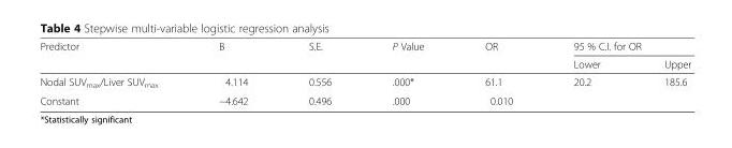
<table><thead><tr><td rowspan="2">Predictor</td><td rowspan="2">B</td><td rowspan="2">S.E.</td><td rowspan="2">P Value</td><td rowspan="2">OR</td><td colspan="2">95 % C.I. for OR</td></tr><tr><td>Lower</td><td>Upper</td></tr></thead><tbody><tr><td>Nodal SUV<sub>max</sub>/Liver SUV<sub>max</sub></td><td>4.114</td><td>0.556</td><td>.000*</td><td>61.1</td><td>20.2</td><td>185.6</td></tr><tr><td>Constant</td><td>−4.642</td><td>0.496</td><td>.000</td><td>0.010</td><td></td><td></td></tr></tbody></table>